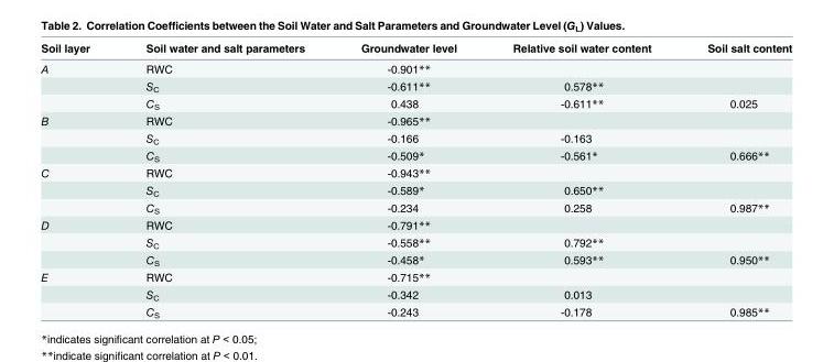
<table><thead><tr><td>Soil layer</td><td>Soil water and salt parameters</td><td>Groundwater level</td><td>Relative soil water content</td><td>Soil salt content</td></tr></thead><tbody><tr><td rowspan="3">A</td><td>RWC</td><td>-0.901**</td><td></td><td></td></tr><tr><td>S<sub>C</sub></td><td>-0.611**</td><td>0.578**</td><td></td></tr><tr><td>C<sub>S</sub></td><td>0.438</td><td>-0.611**</td><td>0.025</td></tr><tr><td rowspan="3">B</td><td>RWC</td><td>-0.965**</td><td></td><td></td></tr><tr><td>S<sub>C</sub></td><td>-0.166</td><td>-0.163</td><td></td></tr><tr><td>C<sub>S</sub></td><td>-0.509*</td><td>-0.561*</td><td>0.666**</td></tr><tr><td rowspan="3">C</td><td>RWC</td><td>-0.943**</td><td></td><td></td></tr><tr><td>S<sub>C</sub></td><td>-0.589*</td><td>0.650**</td><td></td></tr><tr><td>C<sub>S</sub></td><td>-0.234</td><td>0.258</td><td>0.987**</td></tr><tr><td rowspan="3">D</td><td>RWC</td><td>-0.791**</td><td></td><td></td></tr><tr><td>S<sub>C</sub></td><td>-0.558**</td><td>0.792**</td><td></td></tr><tr><td>C<sub>S</sub></td><td>-0.458*</td><td>0.593**</td><td>0.950**</td></tr><tr><td rowspan="3">E</td><td>RWC</td><td>-0.715**</td><td></td><td></td></tr><tr><td>S<sub>C</sub></td><td>-0.342</td><td>0.013</td><td></td></tr><tr><td>C<sub>S</sub></td><td>-0.243</td><td>-0.178</td><td>0.985**</td></tr></tbody></table>